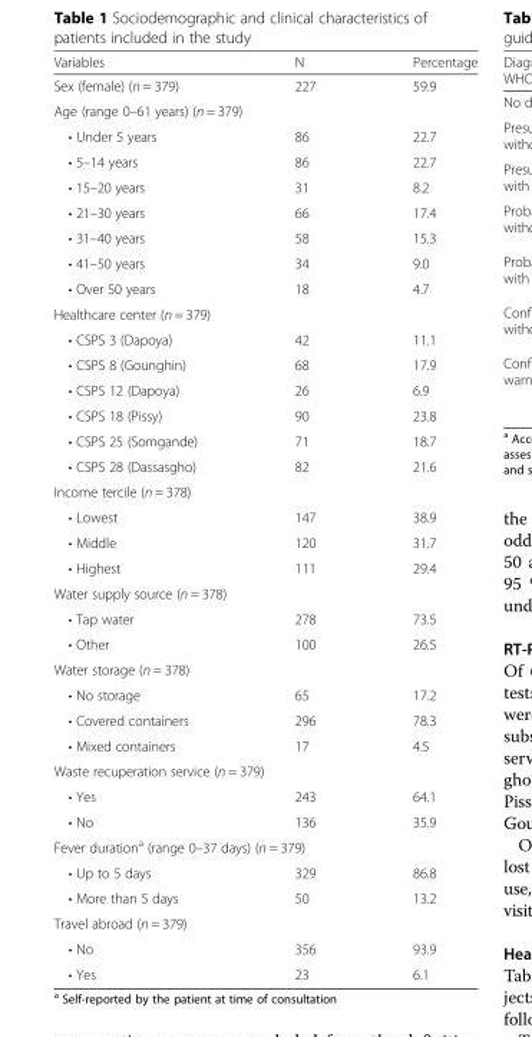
<table><thead><tr><td>Variables</td><td>N</td><td>Percentage</td></tr></thead><tbody><tr><td>Sex (female) (n = 379)</td><td>227</td><td>59.9</td></tr><tr><td colspan="3">Age (range 0–61 years) (n = 379)</td></tr><tr><td>• Under 5 years</td><td>86</td><td>22.7</td></tr><tr><td>• 5–14 years</td><td>86</td><td>22.7</td></tr><tr><td>• 15–20 years</td><td>31</td><td>8.2</td></tr><tr><td>• 21–30 years</td><td>66</td><td>17.4</td></tr><tr><td>• 31–40 years</td><td>58</td><td>15.3</td></tr><tr><td>• 41–50 years</td><td>34</td><td>9.0</td></tr><tr><td>• Over 50 years</td><td>18</td><td>4.7</td></tr><tr><td colspan="3">Healthcare center (n = 379)</td></tr><tr><td>• CSPS 3 (Dapoya)</td><td>42</td><td>11.1</td></tr><tr><td>• CSPS 8 (Gounghin)</td><td>68</td><td>17.9</td></tr><tr><td>• CSPS 12 (Dapoya)</td><td>26</td><td>6.9</td></tr><tr><td>• CSPS 18 (Pissy)</td><td>90</td><td>23.8</td></tr><tr><td>• CSPS 25 (Somgande)</td><td>71</td><td>18.7</td></tr><tr><td>• CSPS 28 (Dassasgho)</td><td>82</td><td>21.6</td></tr><tr><td colspan="3">Income tercile (n = 378)</td></tr><tr><td>• Lowest</td><td>147</td><td>38.9</td></tr><tr><td>• Middle</td><td>120</td><td>31.7</td></tr><tr><td>• Highest</td><td>111</td><td>29.4</td></tr><tr><td colspan="3">Water supply source (n = 378)</td></tr><tr><td>• Tap water</td><td>278</td><td>73.5</td></tr><tr><td>• Other</td><td>100</td><td>26.5</td></tr><tr><td colspan="3">Water storage (n = 378)</td></tr><tr><td>• No storage</td><td>65</td><td>17.2</td></tr><tr><td>• Covered containers</td><td>296</td><td>78.3</td></tr><tr><td>• Mixed containers</td><td>17</td><td>4.5</td></tr><tr><td colspan="3">Waste recuperation service (n = 379)</td></tr><tr><td>• Yes</td><td>243</td><td>64.1</td></tr><tr><td>• No</td><td>136</td><td>35.9</td></tr><tr><td colspan="3">Fever duration<sup>a</sup> (range 0–37 days) (n = 379)</td></tr><tr><td>• Up to 5 days</td><td>329</td><td>86.8</td></tr><tr><td>• More than 5 days</td><td>50</td><td>13.2</td></tr><tr><td colspan="3">Travel abroad (n = 379)</td></tr><tr><td>• No</td><td>356</td><td>93.9</td></tr><tr><td>• Yes</td><td>23</td><td>6.1</td></tr></tbody></table>